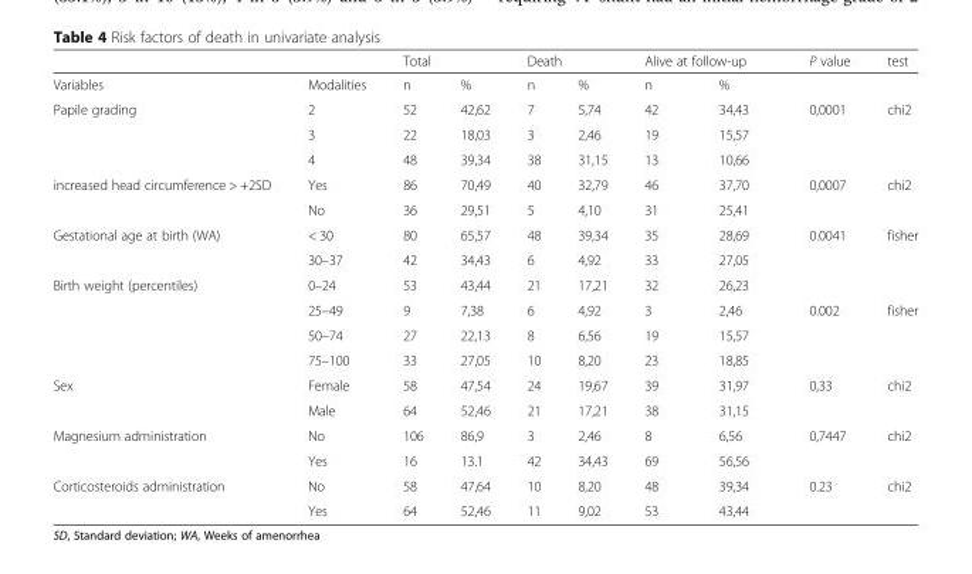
<table><thead><tr><td rowspan="2">Variables</td><td rowspan="2">Modalities</td><td colspan="2">Total</td><td colspan="2">Death</td><td colspan="2">Alive at follow-up</td><td rowspan="2">P value</td><td rowspan="2">test</td></tr><tr><td>n</td><td>%</td><td>n</td><td>%</td><td>n</td><td>%</td></tr></thead><tbody><tr><td rowspan="3">Papile grading</td><td>2</td><td>52</td><td>42,62</td><td>7</td><td>5,74</td><td>42</td><td>34,43</td><td>0,0001</td><td>chi2</td></tr><tr><td>3</td><td>22</td><td>18,03</td><td>3</td><td>2,46</td><td>19</td><td>15,57</td><td></td><td></td></tr><tr><td>4</td><td>48</td><td>39,34</td><td>38</td><td>31,15</td><td>13</td><td>10,66</td><td></td><td></td></tr><tr><td rowspan="2">increased head circumference &gt; +2SD</td><td>Yes</td><td>86</td><td>70,49</td><td>40</td><td>32,79</td><td>46</td><td>37,70</td><td>0,0007</td><td>chi2</td></tr><tr><td>No</td><td>36</td><td>29,51</td><td>5</td><td>4,10</td><td>31</td><td>25,41</td><td></td><td></td></tr><tr><td rowspan="2">Gestational age at birth (WA)</td><td>&lt; 30</td><td>80</td><td>65,57</td><td>48</td><td>39,34</td><td>35</td><td>28,69</td><td>0.0041</td><td>fisher</td></tr><tr><td>30–37</td><td>42</td><td>34,43</td><td>6</td><td>4,92</td><td>33</td><td>27,05</td><td></td><td></td></tr><tr><td rowspan="4">Birth weight (percentiles)</td><td>0–24</td><td>53</td><td>43,44</td><td>21</td><td>17,21</td><td>32</td><td>26,23</td><td></td><td></td></tr><tr><td>25–49</td><td>9</td><td>7,38</td><td>6</td><td>4,92</td><td>3</td><td>2,46</td><td>0.002</td><td>fisher</td></tr><tr><td>50–74</td><td>27</td><td>22,13</td><td>8</td><td>6,56</td><td>19</td><td>15,57</td><td></td><td></td></tr><tr><td>75–100</td><td>33</td><td>27,05</td><td>10</td><td>8,20</td><td>23</td><td>18,85</td><td></td><td></td></tr><tr><td rowspan="2">Sex</td><td>Female</td><td>58</td><td>47,54</td><td>24</td><td>19,67</td><td>39</td><td>31,97</td><td>0,33</td><td>chi2</td></tr><tr><td>Male</td><td>64</td><td>52,46</td><td>21</td><td>17,21</td><td>38</td><td>31,15</td><td></td><td></td></tr><tr><td rowspan="2">Magnesium administration</td><td>No</td><td>106</td><td>86,9</td><td>3</td><td>2,46</td><td>8</td><td>6,56</td><td>0,7447</td><td>chi2</td></tr><tr><td>Yes</td><td>16</td><td>13.1</td><td>42</td><td>34,43</td><td>69</td><td>56,56</td><td></td><td></td></tr><tr><td rowspan="2">Corticosteroids administration</td><td>No</td><td>58</td><td>47,64</td><td>10</td><td>8,20</td><td>48</td><td>39,34</td><td rowspan="2">0.23</td><td rowspan="2">chi2</td></tr><tr><td>Yes</td><td>64</td><td>52,46</td><td>11</td><td>9,02</td><td>53</td><td>43,44</td></tr></tbody></table>